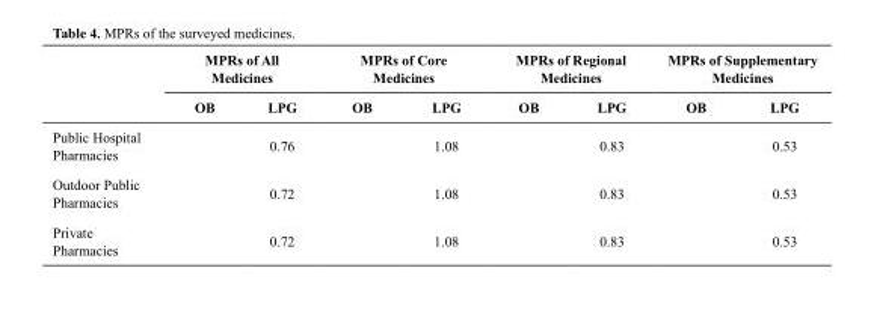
<table><thead><tr><td rowspan="2"></td><td colspan="2">MPRs of All Medicines</td><td colspan="2">MPRs of Core Medicines</td><td colspan="2">MPRs of Regional Medicines</td><td colspan="2">MPRs of Supplementary Medicines</td></tr><tr><td>OB</td><td>LPG</td><td>OB</td><td>LPG</td><td>OB</td><td>LPG</td><td>OB</td><td>LPG</td></tr></thead><tbody><tr><td>Public Hospital Pharmacies</td><td></td><td>0.76</td><td></td><td>1.08</td><td></td><td>0.83</td><td></td><td>0.53</td></tr><tr><td>Outdoor Public Pharmacies</td><td></td><td>0.72</td><td></td><td>1.08</td><td></td><td>0.83</td><td></td><td>0.53</td></tr><tr><td>Private Pharmacies</td><td></td><td>0.72</td><td></td><td>1.08</td><td></td><td>0.83</td><td></td><td>0.53</td></tr></tbody></table>